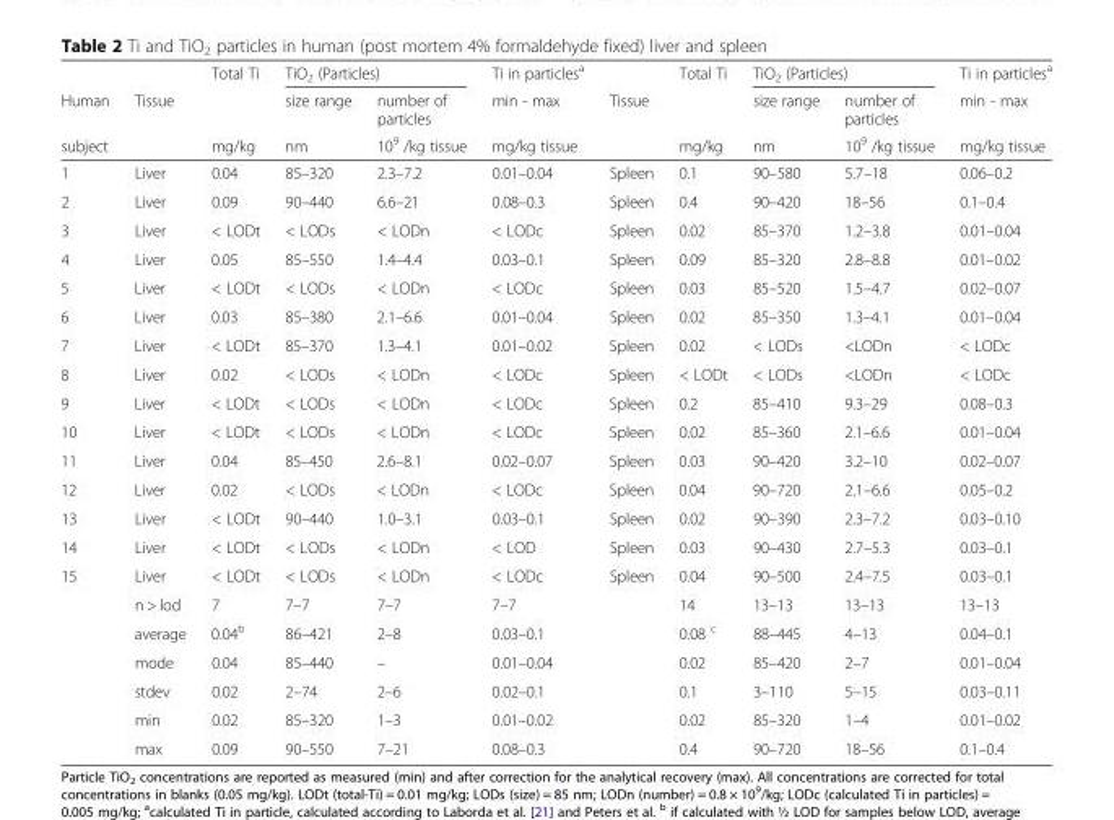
<table><thead><tr><td rowspan="3">Human subject</td><td rowspan="3">Tissue</td><td rowspan="3">Total Ti mg/kg</td><td colspan="2">TiO<sub>2</sub> (Particles)</td><td rowspan="3">Ti in particles<sup>a</sup> min - max mg/kg tissue</td><td rowspan="3">Tissue</td><td rowspan="3">Total Ti mg/kg</td><td colspan="2">TiO<sub>2</sub> (Particles)</td><td rowspan="3">Ti in particles<sup>a</sup> min - max mg/kg tissue</td></tr><tr><td rowspan="2">size range nm</td><td rowspan="2">number of particles 10<sup>9</sup> /kg tissue</td><td rowspan="2">size range nm</td><td rowspan="2">number of particles 10<sup>9</sup> /kg tissue</td></tr><tr></tr></thead><tbody><tr><td>1</td><td>Liver</td><td>0.04</td><td>85–320</td><td>2.3–7.2</td><td>0.01–0.04</td><td>Spleen</td><td>0.1</td><td>90–580</td><td>5.7–18</td><td>0.06–0.2</td></tr><tr><td>2</td><td>Liver</td><td>0.09</td><td>90–440</td><td>6.6–21</td><td>0.08–0.3</td><td>Spleen</td><td>0.4</td><td>90–420</td><td>18–56</td><td>0.1–0.4</td></tr><tr><td>3</td><td>Liver</td><td>&lt; LODt</td><td>&lt; LODs</td><td>&lt; LODn</td><td>&lt; LODc</td><td>Spleen</td><td>0.02</td><td>85–370</td><td>1.2–3.8</td><td>0.01–0.04</td></tr><tr><td>4</td><td>Liver</td><td>0.05</td><td>85–550</td><td>1.4–4.4</td><td>0.03–0.1</td><td>Spleen</td><td>0.09</td><td>85–320</td><td>2.8–8.8</td><td>0.01–0.02</td></tr><tr><td>5</td><td>Liver</td><td>&lt; LODt</td><td>&lt; LODs</td><td>&lt; LODn</td><td>&lt; LODc</td><td>Spleen</td><td>0.03</td><td>85–520</td><td>1.5–4.7</td><td>0.02–0.07</td></tr><tr><td>6</td><td>Liver</td><td>0.03</td><td>85–380</td><td>2.1–6.6</td><td>0.01–0.04</td><td>Spleen</td><td>0.02</td><td>85–350</td><td>1.3–4.1</td><td>0.01–0.04</td></tr><tr><td>7</td><td>Liver</td><td>&lt; LODt</td><td>85–370</td><td>1.3–4.1</td><td>0.01–0.02</td><td>Spleen</td><td>0.02</td><td>&lt; LODs</td><td>&lt;LODn</td><td>&lt; LODc</td></tr><tr><td>8</td><td>Liver</td><td>0.02</td><td>&lt; LODs</td><td>&lt; LODn</td><td>&lt; LODc</td><td>Spleen</td><td>&lt; LODt</td><td>&lt; LODs</td><td>&lt;LODn</td><td>&lt; LODc</td></tr><tr><td>9</td><td>Liver</td><td>&lt; LODt</td><td>&lt; LODs</td><td>&lt; LODn</td><td>&lt; LODc</td><td>Spleen</td><td>0.2</td><td>85–410</td><td>9.3–29</td><td>0.08–0.3</td></tr><tr><td>10</td><td>Liver</td><td>&lt; LODt</td><td>&lt; LODs</td><td>&lt; LODn</td><td>&lt; LODc</td><td>Spleen</td><td>0.02</td><td>85–360</td><td>2.1–6.6</td><td>0.01–0.04</td></tr><tr><td>11</td><td>Liver</td><td>0.04</td><td>85–450</td><td>2.6–8.1</td><td>0.02–0.07</td><td>Spleen</td><td>0.03</td><td>90–420</td><td>3.2–10</td><td>0.02–0.07</td></tr><tr><td>12</td><td>Liver</td><td>0.02</td><td>&lt; LODs</td><td>&lt; LODn</td><td>&lt; LODc</td><td>Spleen</td><td>0.04</td><td>90–720</td><td>2.1–6.6</td><td>0.05–0.2</td></tr><tr><td>13</td><td>Liver</td><td>&lt; LODt</td><td>90–440</td><td>1.0–3.1</td><td>0.03–0.1</td><td>Spleen</td><td>0.02</td><td>90–390</td><td>2.3–7.2</td><td>0.03–0.10</td></tr><tr><td>14</td><td>Liver</td><td>&lt; LODt</td><td>&lt; LODs</td><td>&lt; LODn</td><td>&lt; LOD</td><td>Spleen</td><td>0.03</td><td>90–430</td><td>2.7–5.3</td><td>0.03–0.1</td></tr><tr><td rowspan="7">15</td><td>Liver</td><td>&lt; LODt</td><td>&lt; LODs</td><td>&lt; LODn</td><td>&lt; LODc</td><td>Spleen</td><td>0.04</td><td>90–500</td><td>2.4–7.5</td><td>0.03–0.1</td></tr><tr><td>n &gt; lod</td><td>7</td><td>7–7</td><td>7–7</td><td>7–7</td><td></td><td>14</td><td>13–13</td><td>13–13</td><td>13–13</td></tr><tr><td>average</td><td>0.04<sup>b</sup></td><td>86–421</td><td>2–8</td><td>0.03–0.1</td><td></td><td>0.08 <sup>c</sup></td><td>88–445</td><td>4–13</td><td>0.04–0.1</td></tr><tr><td>mode</td><td>0.04</td><td>85–440</td><td>–</td><td>0.01–0.04</td><td></td><td>0.02</td><td>85–420</td><td>2–7</td><td>0.01–0.04</td></tr><tr><td>stdev</td><td>0.02</td><td>2–74</td><td>2–6</td><td>0.02–0.1</td><td></td><td>0.1</td><td>3–110</td><td>5–15</td><td>0.03–0.11</td></tr><tr><td>min</td><td>0.02</td><td>85–320</td><td>1–3</td><td>0.01–0.02</td><td></td><td>0.02</td><td>85–320</td><td>1–4</td><td>0.01–0.02</td></tr><tr><td>max</td><td>0.09</td><td>90–550</td><td>7–21</td><td>0.08–0.3</td><td></td><td>0.4</td><td>90–720</td><td>18–56</td><td>0.1–0.4</td></tr></tbody></table>